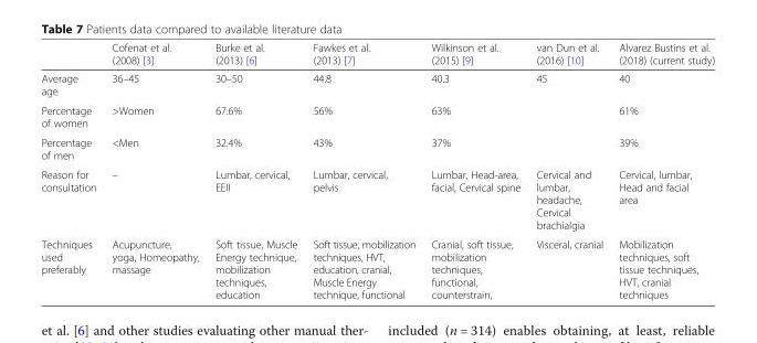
<table><thead><tr><td></td><td>Cofenat et al. (2008) [3]</td><td>Burke et al. (2013) [6]</td><td>Fawkes et al. (2013) [7]</td><td>Wilkinson et al. (2015) [9]</td><td>van Dun et al. (2016) [10]</td><td>Alvarez Bustins et al. (2018) (current study)</td></tr></thead><tbody><tr><td>Average age</td><td>36–45</td><td>30–50</td><td>44.8</td><td>40.3</td><td>45</td><td>40</td></tr><tr><td>Percentage of women</td><td>&gt;Women</td><td>67.6%</td><td>56%</td><td>63%</td><td></td><td>61%</td></tr><tr><td>Percentage of men</td><td>&lt;Men</td><td>32.4%</td><td>43%</td><td>37%</td><td></td><td>39%</td></tr><tr><td>Reason for consultation</td><td>–</td><td>Lumbar, cervical, EEII</td><td>Lumbar, cervical, pelvis</td><td>Lumbar, Head-area, facial, Cervical spine</td><td>Cervical and lumbar, headache, Cervical brachialgia</td><td>Cervical, lumbar, Head and facial area</td></tr><tr><td>Techniques used preferably</td><td>Acupuncture, yoga, Homeopathy, massage</td><td>Soft tissue, Muscle Energy technique, mobilization techniques, education</td><td>Soft tissue, mobilization techniques, HVT, education, cranial, Muscle Energy technique, functional</td><td>Cranial, soft tissue, mobilization techniques, functional, counterstrain,</td><td>Visceral, cranial</td><td>Mobilization techniques, soft tissue techniques, HVT, cranial techniques</td></tr></tbody></table>